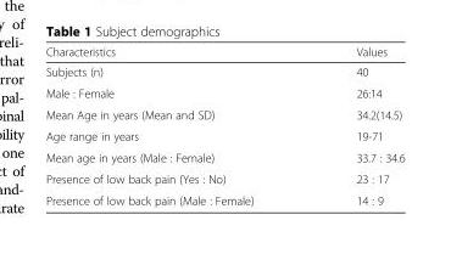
<table><thead><tr><td>Characteristics</td><td>Values</td></tr></thead><tbody><tr><td>Subjects (n)</td><td>40</td></tr><tr><td>Male : Female</td><td>26:14</td></tr><tr><td>Mean Age in years (Mean and SD)</td><td>34.2(14.5)</td></tr><tr><td>Age range in years</td><td>19-71</td></tr><tr><td>Mean age in years (Male : Female)</td><td>33.7 : 34.6</td></tr><tr><td>Presence of low back pain (Yes : No)</td><td>23 : 17</td></tr><tr><td>Presence of low back pain (Male : Female)</td><td>14 : 9</td></tr></tbody></table>